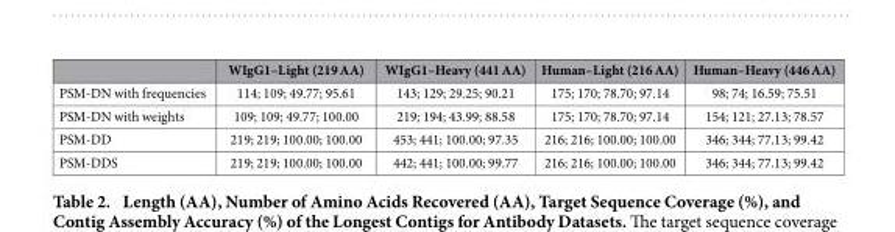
<table><thead><tr><td></td><td>WIgG1–Light (219 AA)</td><td>WIgG1–Heavy (441 AA)</td><td>Human–Light (216 AA)</td><td>Human–Heavy (446 AA)</td></tr></thead><tbody><tr><td>PSM-DN with frequencies</td><td>114; 109; 49.77; 95.61</td><td>143; 129; 29.25; 90.21</td><td>175; 170; 78.70; 97.14</td><td>98; 74; 16.59; 75.51</td></tr><tr><td>PSM-DN with weights</td><td>109; 109; 49.77; 100.00</td><td>219; 194; 43.99; 88.58</td><td>175; 170; 78.70; 97.14</td><td>154; 121; 27.13; 78.57</td></tr><tr><td>PSM-DD</td><td>219; 219; 100.00; 100.00</td><td>453; 441; 100.00; 97.35</td><td>216; 216; 100.00; 100.00</td><td>346; 344; 77.13; 99.42</td></tr><tr><td>PSM-DDS</td><td>219; 219; 100.00; 100.00</td><td>442; 441; 100.00; 99.77</td><td>216; 216; 100.00; 100.00</td><td>346; 344; 77.13; 99.42</td></tr></tbody></table>